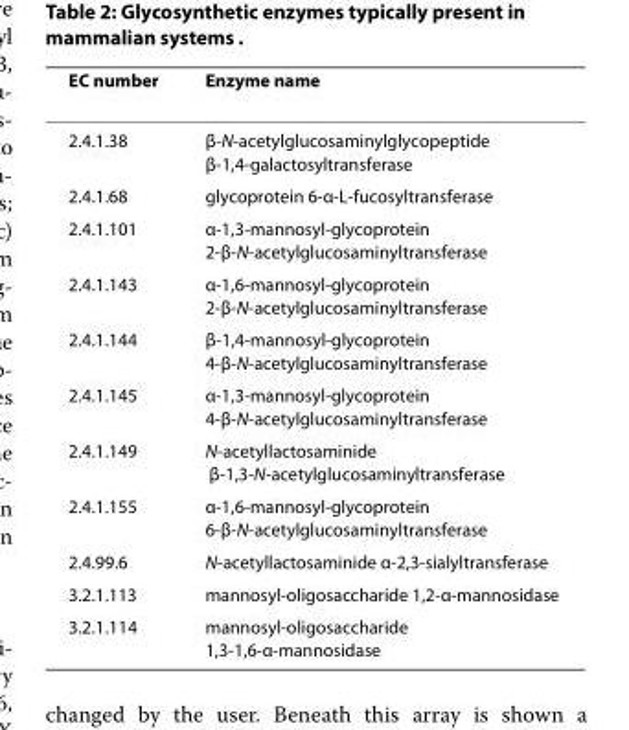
<table><thead><tr><td>EC number</td><td>Enzyme name</td></tr></thead><tbody><tr><td>2.4.1.38</td><td>β-N-acetylglucosaminylglycopeptide β-1,4-galactosyltransferase</td></tr><tr><td>2.4.1.68</td><td>glycoprotein 6-α-L-fucosyltransferase</td></tr><tr><td>2.4.1.101</td><td>α-1,3-mannosyl-glycoprotein 2-β-N-acetylglucosaminyltransferase</td></tr><tr><td>2.4.1.143</td><td>α-1,6-mannosyl-glycoprotein 2-β-N-acetylglucosaminyltransferase</td></tr><tr><td>2.4.1.144</td><td>β-1,4-mannosyl-glycoprotein 4-β-N-acetylglucosaminyltransferase</td></tr><tr><td>2.4.1.145</td><td>α-1,3-mannosyl-glycoprotein 4-β-N-acetylglucosaminyltransferase</td></tr><tr><td>2.4.1.149</td><td>N-acetyllactosaminide β-1,3-N-acetylglucosaminyltransferase</td></tr><tr><td>2.4.1.155</td><td>α-1,6-mannosyl-glycoprotein 6-β-N-acetylglucosaminyltransferase</td></tr><tr><td>2.4.99.6</td><td>N-acetyllactosaminide α-2,3-sialyltransferase</td></tr><tr><td>3.2.1.113</td><td>mannosyl-oligosaccharide 1,2-α-mannosidase</td></tr><tr><td>3.2.1.114</td><td>mannosyl-oligosaccharide 1,3-1,6-α-mannosidase</td></tr></tbody></table>